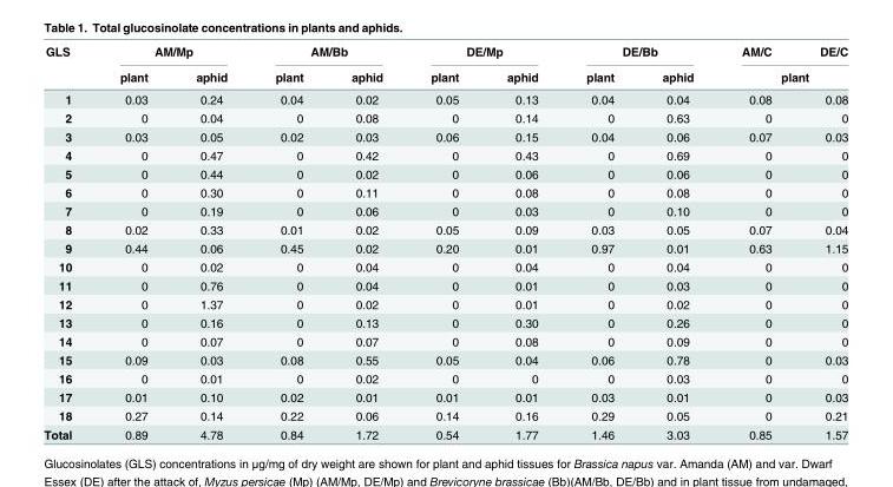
<table><thead><tr><td rowspan="2">GLS</td><td colspan="2">AM/Mp</td><td colspan="2">AM/Bb</td><td colspan="2">DE/Mp</td><td colspan="2">DE/Bb</td><td>AM/C</td><td>DE/C</td></tr><tr><td>plant</td><td>aphid</td><td>plant</td><td>aphid</td><td>plant</td><td>aphid</td><td>plant</td><td>aphid</td><td colspan="2">plant</td></tr></thead><tbody><tr><td>1</td><td>0.03</td><td>0.24</td><td>0.04</td><td>0.02</td><td>0.05</td><td>0.13</td><td>0.04</td><td>0.04</td><td>0.08</td><td>0.08</td></tr><tr><td>2</td><td>0</td><td>0.04</td><td>0</td><td>0.08</td><td>0</td><td>0.14</td><td>0</td><td>0.63</td><td>0</td><td>0</td></tr><tr><td>3</td><td>0.03</td><td>0.05</td><td>0.02</td><td>0.03</td><td>0.06</td><td>0.15</td><td>0.04</td><td>0.06</td><td>0.07</td><td>0.03</td></tr><tr><td>4</td><td>0</td><td>0.47</td><td>0</td><td>0.42</td><td>0</td><td>0.43</td><td>0</td><td>0.69</td><td>0</td><td>0</td></tr><tr><td>5</td><td>0</td><td>0.44</td><td>0</td><td>0.02</td><td>0</td><td>0.06</td><td>0</td><td>0.06</td><td>0</td><td>0</td></tr><tr><td>6</td><td>0</td><td>0.30</td><td>0</td><td>0.11</td><td>0</td><td>0.08</td><td>0</td><td>0.08</td><td>0</td><td>0</td></tr><tr><td>7</td><td>0</td><td>0.19</td><td>0</td><td>0.06</td><td>0</td><td>0.03</td><td>0</td><td>0.10</td><td>0</td><td>0</td></tr><tr><td>8</td><td>0.02</td><td>0.33</td><td>0.01</td><td>0.02</td><td>0.05</td><td>0.09</td><td>0.03</td><td>0.05</td><td>0.07</td><td>0.04</td></tr><tr><td>9</td><td>0.44</td><td>0.06</td><td>0.45</td><td>0.02</td><td>0.20</td><td>0.01</td><td>0.97</td><td>0.01</td><td>0.63</td><td>1.15</td></tr><tr><td>10</td><td>0</td><td>0.02</td><td>0</td><td>0.04</td><td>0</td><td>0.04</td><td>0</td><td>0.04</td><td>0</td><td>0</td></tr><tr><td>11</td><td>0</td><td>0.76</td><td>0</td><td>0.04</td><td>0</td><td>0.01</td><td>0</td><td>0.03</td><td>0</td><td>0</td></tr><tr><td>12</td><td>0</td><td>1.37</td><td>0</td><td>0.02</td><td>0</td><td>0.01</td><td>0</td><td>0.02</td><td>0</td><td>0</td></tr><tr><td>13</td><td>0</td><td>0.16</td><td>0</td><td>0.13</td><td>0</td><td>0.30</td><td>0</td><td>0.26</td><td>0</td><td>0</td></tr><tr><td>14</td><td>0</td><td>0.07</td><td>0</td><td>0.07</td><td>0</td><td>0.08</td><td>0</td><td>0.09</td><td>0</td><td>0</td></tr><tr><td>15</td><td>0.09</td><td>0.03</td><td>0.08</td><td>0.55</td><td>0.05</td><td>0.04</td><td>0.06</td><td>0.78</td><td>0</td><td>0.03</td></tr><tr><td>16</td><td>0</td><td>0.01</td><td>0</td><td>0.02</td><td>0</td><td>0</td><td>0</td><td>0.03</td><td>0</td><td>0</td></tr><tr><td>17</td><td>0.01</td><td>0.10</td><td>0.02</td><td>0.01</td><td>0.01</td><td>0.01</td><td>0.03</td><td>0.01</td><td>0</td><td>0.03</td></tr><tr><td>18</td><td>0.27</td><td>0.14</td><td>0.22</td><td>0.06</td><td>0.14</td><td>0.16</td><td>0.29</td><td>0.05</td><td>0</td><td>0.21</td></tr><tr><td>Total</td><td>0.89</td><td>4.78</td><td>0.84</td><td>1.72</td><td>0.54</td><td>1.77</td><td>1.46</td><td>3.03</td><td>0.85</td><td>1.57</td></tr></tbody></table>